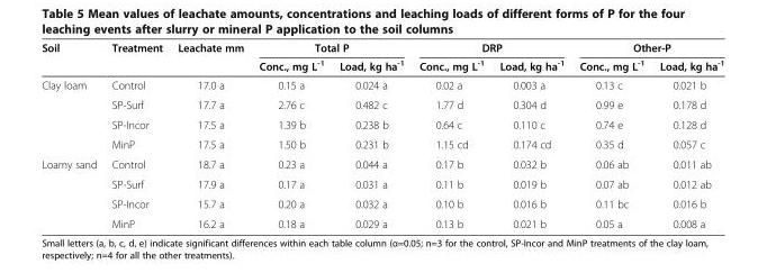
<table><thead><tr><td rowspan="2">Soil</td><td rowspan="2">Treatment</td><td rowspan="2">Leachate mm</td><td colspan="2">Total P</td><td colspan="2">DRP</td><td colspan="2">Other-P</td></tr><tr><td>Conc., mg L<sup>-1</sup></td><td>Load, kg ha<sup>-1</sup></td><td>Conc., mg L<sup>-1</sup></td><td>Load, kg ha<sup>-1</sup></td><td>Conc., mg L<sup>-1</sup></td><td>Load, kg ha<sup>-1</sup></td></tr></thead><tbody><tr><td rowspan="4">Clay loam</td><td>Control</td><td>17.0 a</td><td>0.15 a</td><td>0.024 a</td><td>0.02 a</td><td>0.003 a</td><td>0.13 c</td><td>0.021 b</td></tr><tr><td>SP-Surf</td><td>17.7 a</td><td>2.76 c</td><td>0.482 c</td><td>1.77 d</td><td>0.304 d</td><td>0.99 e</td><td>0.178 d</td></tr><tr><td>SP-Incor</td><td>17.5 a</td><td>1.39 b</td><td>0.238 b</td><td>0.64 c</td><td>0.110 c</td><td>0.74 e</td><td>0.128 d</td></tr><tr><td>MinP</td><td>17.5 a</td><td>1.50 b</td><td>0.231 b</td><td>1.15 cd</td><td>0.174 cd</td><td>0.35 d</td><td>0.057 c</td></tr><tr><td rowspan="4">Loamy sand</td><td>Control</td><td>18.7 a</td><td>0.23 a</td><td>0.044 a</td><td>0.17 b</td><td>0.032 b</td><td>0.06 ab</td><td>0.011 ab</td></tr><tr><td>SP-Surf</td><td>17.9 a</td><td>0.17 a</td><td>0.031 a</td><td>0.11 b</td><td>0.019 b</td><td>0.07 ab</td><td>0.012 ab</td></tr><tr><td>SP-Incor</td><td>15.7 a</td><td>0.20 a</td><td>0.032 a</td><td>0.10 b</td><td>0.016 b</td><td>0.11 bc</td><td>0.016 b</td></tr><tr><td>MinP</td><td>16.2 a</td><td>0.18 a</td><td>0.029 a</td><td>0.13 b</td><td>0.021 b</td><td>0.05 a</td><td>0.008 a</td></tr></tbody></table>